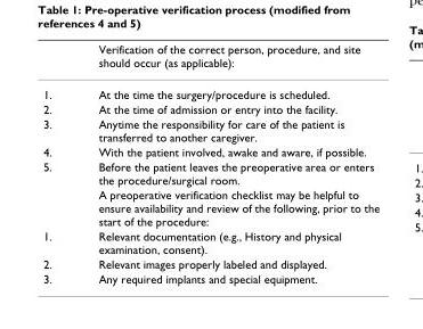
<table><thead><tr><td></td><td>Verification of the correct person, procedure, and site should occur (as applicable):</td></tr></thead><tbody><tr><td>1.</td><td>At the time the surgery/procedure is scheduled.</td></tr><tr><td>2.</td><td>At the time of admission or entry into the facility.</td></tr><tr><td>3.</td><td>Anytime the responsibility for care of the patient is transferred to another caregiver.</td></tr><tr><td>4.</td><td>With the patient involved, awake and aware, if possible.</td></tr><tr><td rowspan="2">5.</td><td>Before the patient leaves the preoperative area or enters the procedure/surgical room.</td></tr><tr><td>A preoperative verification checklist may be helpful to ensure availability and review of the following, prior to the start of the procedure:</td></tr><tr><td>1.</td><td>Relevant documentation (e.g., History and physical examination, consent).</td></tr><tr><td>2.</td><td>Relevant images properly labeled and displayed.</td></tr><tr><td>3.</td><td>Any required implants and special equipment.</td></tr></tbody></table>